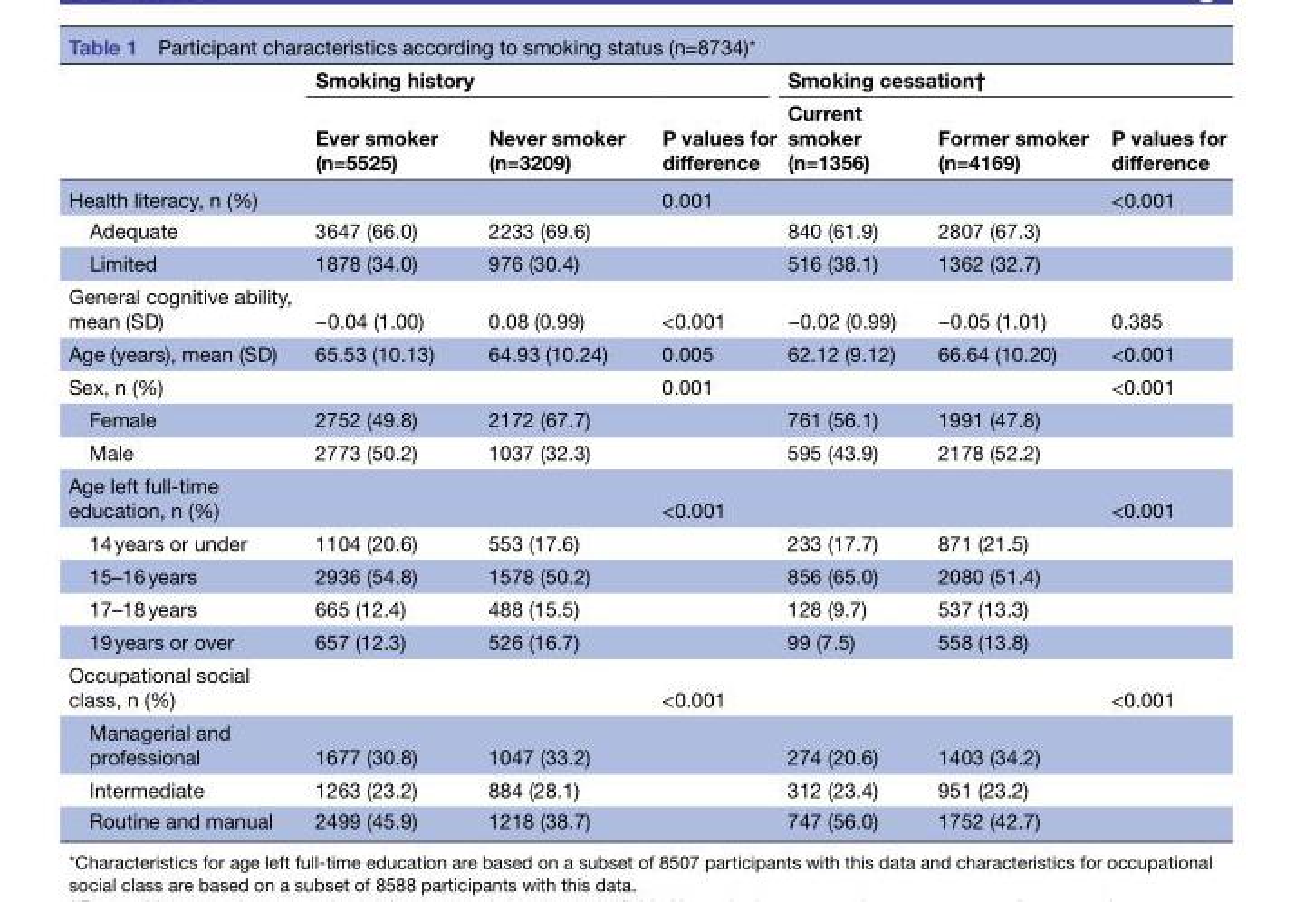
<table><thead><tr><td rowspan="2"></td><td colspan="3">Smoking history</td><td colspan="3">Smoking cessation†</td></tr><tr><td>Ever smoker (n=5525)</td><td>Never smoker (n=3209)</td><td>P values for difference</td><td>Current smoker (n=1356)</td><td>Former smoker (n=4169)</td><td>P values for difference</td></tr></thead><tbody><tr><td>Health literacy, n (%)</td><td></td><td></td><td>0.001</td><td></td><td></td><td>&lt;0.001</td></tr><tr><td>Adequate</td><td>3647 (66.0)</td><td>2233 (69.6)</td><td></td><td>840 (61.9)</td><td>2807 (67.3)</td><td></td></tr><tr><td>Limited</td><td>1878 (34.0)</td><td>976 (30.4)</td><td></td><td>516 (38.1)</td><td>1362 (32.7)</td><td></td></tr><tr><td>General cognitive ability, mean (SD)</td><td>−0.04 (1.00)</td><td>0.08 (0.99)</td><td>&lt;0.001</td><td>−0.02 (0.99)</td><td>−0.05 (1.01)</td><td>0.385</td></tr><tr><td>Age (years), mean (SD)</td><td>65.53 (10.13)</td><td>64.93 (10.24)</td><td>0.005</td><td>62.12 (9.12)</td><td>66.64 (10.20)</td><td>&lt;0.001</td></tr><tr><td>Sex, n (%)</td><td></td><td></td><td>0.001</td><td></td><td></td><td>&lt;0.001</td></tr><tr><td>Female</td><td>2752 (49.8)</td><td>2172 (67.7)</td><td></td><td>761 (56.1)</td><td>1991 (47.8)</td><td></td></tr><tr><td>Male</td><td>2773 (50.2)</td><td>1037 (32.3)</td><td></td><td>595 (43.9)</td><td>2178 (52.2)</td><td></td></tr><tr><td>Age left full-time education, n (%)</td><td></td><td></td><td>&lt;0.001</td><td></td><td></td><td>&lt;0.001</td></tr><tr><td>14 years or under</td><td>1104 (20.6)</td><td>553 (17.6)</td><td></td><td>233 (17.7)</td><td>871 (21.5)</td><td></td></tr><tr><td>15–16 years</td><td>2936 (54.8)</td><td>1578 (50.2)</td><td></td><td>856 (65.0)</td><td>2080 (51.4)</td><td></td></tr><tr><td>17–18 years</td><td>665 (12.4)</td><td>488 (15.5)</td><td></td><td>128 (9.7)</td><td>537 (13.3)</td><td></td></tr><tr><td>19 years or over</td><td>657 (12.3)</td><td>526 (16.7)</td><td></td><td>99 (7.5)</td><td>558 (13.8)</td><td></td></tr><tr><td>Occupational social class, n (%)</td><td></td><td></td><td>&lt;0.001</td><td></td><td></td><td>&lt;0.001</td></tr><tr><td>Managerial and professional</td><td>1677 (30.8)</td><td>1047 (33.2)</td><td></td><td>274 (20.6)</td><td>1403 (34.2)</td><td></td></tr><tr><td>Intermediate</td><td>1263 (23.2)</td><td>884 (28.1)</td><td></td><td>312 (23.4)</td><td>951 (23.2)</td><td></td></tr><tr><td>Routine and manual</td><td>2499 (45.9)</td><td>1218 (38.7)</td><td></td><td>747 (56.0)</td><td>1752 (42.7)</td><td></td></tr></tbody></table>